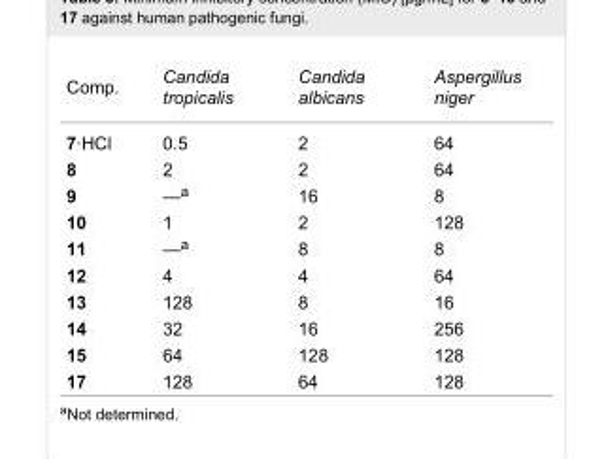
<table><tbody><tr><td>Comp.</td><td>Candida tropicalis</td><td>Candida albicans</td><td>Aspergillus niger</td></tr><tr><td>7·HCl</td><td>0.5</td><td>2</td><td>64</td></tr><tr><td>8</td><td>2</td><td>2</td><td>64</td></tr><tr><td>9</td><td>—<sup>a</sup></td><td>16</td><td>8</td></tr><tr><td>10</td><td>1</td><td>2</td><td>128</td></tr><tr><td>11</td><td>—<sup>a</sup></td><td>8</td><td>8</td></tr><tr><td>12</td><td>4</td><td>4</td><td>64</td></tr><tr><td>13</td><td>128</td><td>8</td><td>16</td></tr><tr><td>14</td><td>32</td><td>16</td><td>256</td></tr><tr><td>15</td><td>64</td><td>128</td><td>128</td></tr><tr><td>17</td><td>128</td><td>64</td><td>128</td></tr></tbody></table>